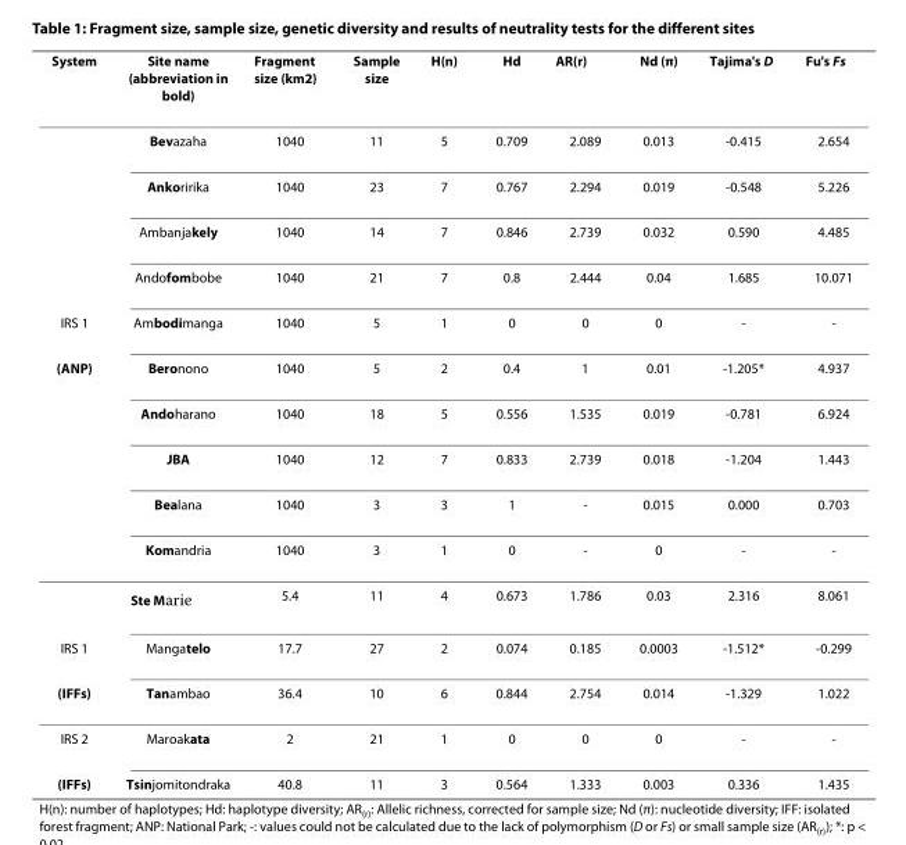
<table><thead><tr><td>System</td><td>Site name (abbreviation in bold)</td><td>Fragment size (km<sup>2</sup>)</td><td>Sample size</td><td>H(n)</td><td>Hd</td><td>AR<sub>(r)</sub></td><td>Nd (π)</td><td>Tajima&#x27;s D</td><td>Fu&#x27;s Fs</td></tr></thead><tbody><tr><td></td><td>Bevazaha</td><td>1040</td><td>11</td><td>5</td><td>0.709</td><td>2.089</td><td>0.013</td><td>-0.415</td><td>2.654</td></tr><tr><td></td><td>Ankoririka</td><td>1040</td><td>23</td><td>7</td><td>0.767</td><td>2.294</td><td>0.019</td><td>-0.548</td><td>5.226</td></tr><tr><td></td><td>Ambanjakely</td><td>1040</td><td>14</td><td>7</td><td>0.846</td><td>2.739</td><td>0.032</td><td>0.590</td><td>4.485</td></tr><tr><td></td><td>Andofombobe</td><td>1040</td><td>21</td><td>7</td><td>0.8</td><td>2.444</td><td>0.04</td><td>1.685</td><td>10.071</td></tr><tr><td>IRS 1</td><td>Ambodimanga</td><td>1040</td><td>5</td><td>1</td><td>0</td><td>0</td><td>0</td><td>-</td><td>-</td></tr><tr><td rowspan="6">(ANP)</td><td>Beronono</td><td>1040</td><td>5</td><td>2</td><td>0.4</td><td>1</td><td>0.01</td><td>-1.205*</td><td>4.937</td></tr><tr><td>Andoharano</td><td>1040</td><td>18</td><td>5</td><td>0.556</td><td>1.535</td><td>0.019</td><td>-0.781</td><td>6.924</td></tr><tr><td>JBA</td><td>1040</td><td>12</td><td>7</td><td>0.833</td><td>2.739</td><td>0.018</td><td>-1.204</td><td>1.443</td></tr><tr><td>Bealana</td><td>1040</td><td>3</td><td>3</td><td>1</td><td>-</td><td>0.015</td><td>0.000</td><td>0.703</td></tr><tr><td>Komandria</td><td>1040</td><td>3</td><td>1</td><td>0</td><td>-</td><td>0</td><td>-</td><td>-</td></tr><tr><td>S<sup>te</sup> Marie</td><td>5.4</td><td>11</td><td>4</td><td>0.673</td><td>1.786</td><td>0.03</td><td>2.316</td><td>8.061</td></tr><tr><td>IRS 1</td><td>Mangatelo</td><td>17.7</td><td>27</td><td>2</td><td>0.074</td><td>0.185</td><td>0.0003</td><td>-1.512*</td><td>-0.299</td></tr><tr><td>(IFFs)</td><td>Tanambao</td><td>36.4</td><td>10</td><td>6</td><td>0.844</td><td>2.754</td><td>0.014</td><td>-1.329</td><td>1.022</td></tr><tr><td>IRS 2</td><td>Maroakata</td><td>2</td><td>21</td><td>1</td><td>0</td><td>0</td><td>0</td><td>-</td><td>-</td></tr><tr><td>(IFFs)</td><td>Tsinjomitondraka</td><td>40.8</td><td>11</td><td>3</td><td>0.564</td><td>1.333</td><td>0.003</td><td>0.336</td><td>1.435</td></tr></tbody></table>